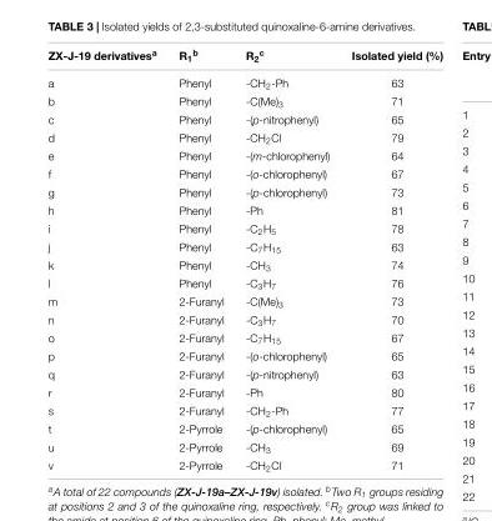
<table><thead><tr><td>ZX-J-19 derivatives<sup>a</sup></td><td>R<sub>1</sub><sup>b</sup></td><td>R<sub>2</sub><sup>c</sup></td><td>Isolated yield (%)</td></tr></thead><tbody><tr><td>a</td><td>Phenyl</td><td>-CH<sub>2</sub>-Ph</td><td>63</td></tr><tr><td>b</td><td>Phenyl</td><td>-C(Me)<sub>3</sub></td><td>71</td></tr><tr><td>c</td><td>Phenyl</td><td>-(p-nitrophenyl)</td><td>65</td></tr><tr><td>d</td><td>Phenyl</td><td>-CH<sub>2</sub>Cl</td><td>79</td></tr><tr><td>e</td><td>Phenyl</td><td>-(m-chlorophenyl)</td><td>64</td></tr><tr><td>f</td><td>Phenyl</td><td>-(o-chlorophenyl)</td><td>67</td></tr><tr><td>g</td><td>Phenyl</td><td>-(p-chlorophenyl)</td><td>73</td></tr><tr><td>h</td><td>Phenyl</td><td>-Ph</td><td>81</td></tr><tr><td>i</td><td>Phenyl</td><td>-C<sub>2</sub>H<sub>5</sub></td><td>78</td></tr><tr><td>j</td><td>Phenyl</td><td>-C<sub>7</sub>H<sub>15</sub></td><td>63</td></tr><tr><td>k</td><td>Phenyl</td><td>-CH<sub>3</sub></td><td>74</td></tr><tr><td>l</td><td>Phenyl</td><td>-C<sub>3</sub>H<sub>7</sub></td><td>76</td></tr><tr><td>m</td><td>2-Furanyl</td><td>-C(Me)<sub>3</sub></td><td>73</td></tr><tr><td>n</td><td>2-Furanyl</td><td>-C<sub>3</sub>H<sub>7</sub></td><td>70</td></tr><tr><td>o</td><td>2-Furanyl</td><td>-C<sub>7</sub>H<sub>15</sub></td><td>67</td></tr><tr><td>p</td><td>2-Furanyl</td><td>-(o-chlorophenyl)</td><td>65</td></tr><tr><td>q</td><td>2-Furanyl</td><td>-(p-nitrophenyl)</td><td>63</td></tr><tr><td>r</td><td>2-Furanyl</td><td>-Ph</td><td>80</td></tr><tr><td>s</td><td>2-Furanyl</td><td>-CH<sub>2</sub>-Ph</td><td>77</td></tr><tr><td>t</td><td>2-Pyrrole</td><td>-(p-chlorophenyl)</td><td>65</td></tr><tr><td>u</td><td>2-Pyrrole</td><td>-CH<sub>3</sub></td><td>69</td></tr><tr><td>v</td><td>2-Pyrrole</td><td>-CH<sub>2</sub>Cl</td><td>71</td></tr></tbody></table>